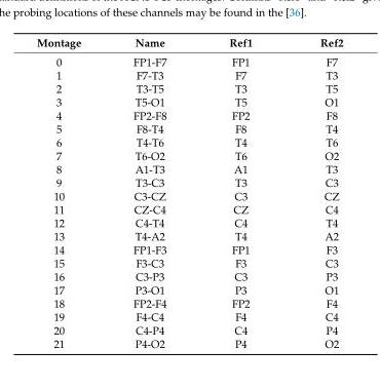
<table><thead><tr><td>Montage</td><td>Name</td><td>Ref1</td><td>Ref2</td></tr></thead><tbody><tr><td>0</td><td>FP1-F7</td><td>FP1</td><td>F7</td></tr><tr><td>1</td><td>F7-T3</td><td>F7</td><td>T3</td></tr><tr><td>2</td><td>T3-T5</td><td>T3</td><td>T5</td></tr><tr><td>3</td><td>T5-O1</td><td>T5</td><td>O1</td></tr><tr><td>4</td><td>FP2-F8</td><td>FP2</td><td>F8</td></tr><tr><td>5</td><td>F8-T4</td><td>F8</td><td>T4</td></tr><tr><td>6</td><td>T4-T6</td><td>T4</td><td>T6</td></tr><tr><td>7</td><td>T6-O2</td><td>T6</td><td>O2</td></tr><tr><td>8</td><td>A1-T3</td><td>A1</td><td>T3</td></tr><tr><td>9</td><td>T3-C3</td><td>T3</td><td>C3</td></tr><tr><td>10</td><td>C3-CZ</td><td>C3</td><td>CZ</td></tr><tr><td>11</td><td>CZ-C4</td><td>CZ</td><td>C4</td></tr><tr><td>12</td><td>C4-T4</td><td>C4</td><td>T4</td></tr><tr><td>13</td><td>T4-A2</td><td>T4</td><td>A2</td></tr><tr><td>14</td><td>FP1-F3</td><td>FP1</td><td>F3</td></tr><tr><td>15</td><td>F3-C3</td><td>F3</td><td>C3</td></tr><tr><td>16</td><td>C3-P3</td><td>C3</td><td>P3</td></tr><tr><td>17</td><td>P3-O1</td><td>P3</td><td>O1</td></tr><tr><td>18</td><td>FP2-F4</td><td>FP2</td><td>F4</td></tr><tr><td>19</td><td>F4-C4</td><td>F4</td><td>C4</td></tr><tr><td>20</td><td>C4-P4</td><td>C4</td><td>P4</td></tr><tr><td>21</td><td>P4-O2</td><td>P4</td><td>O2</td></tr></tbody></table>